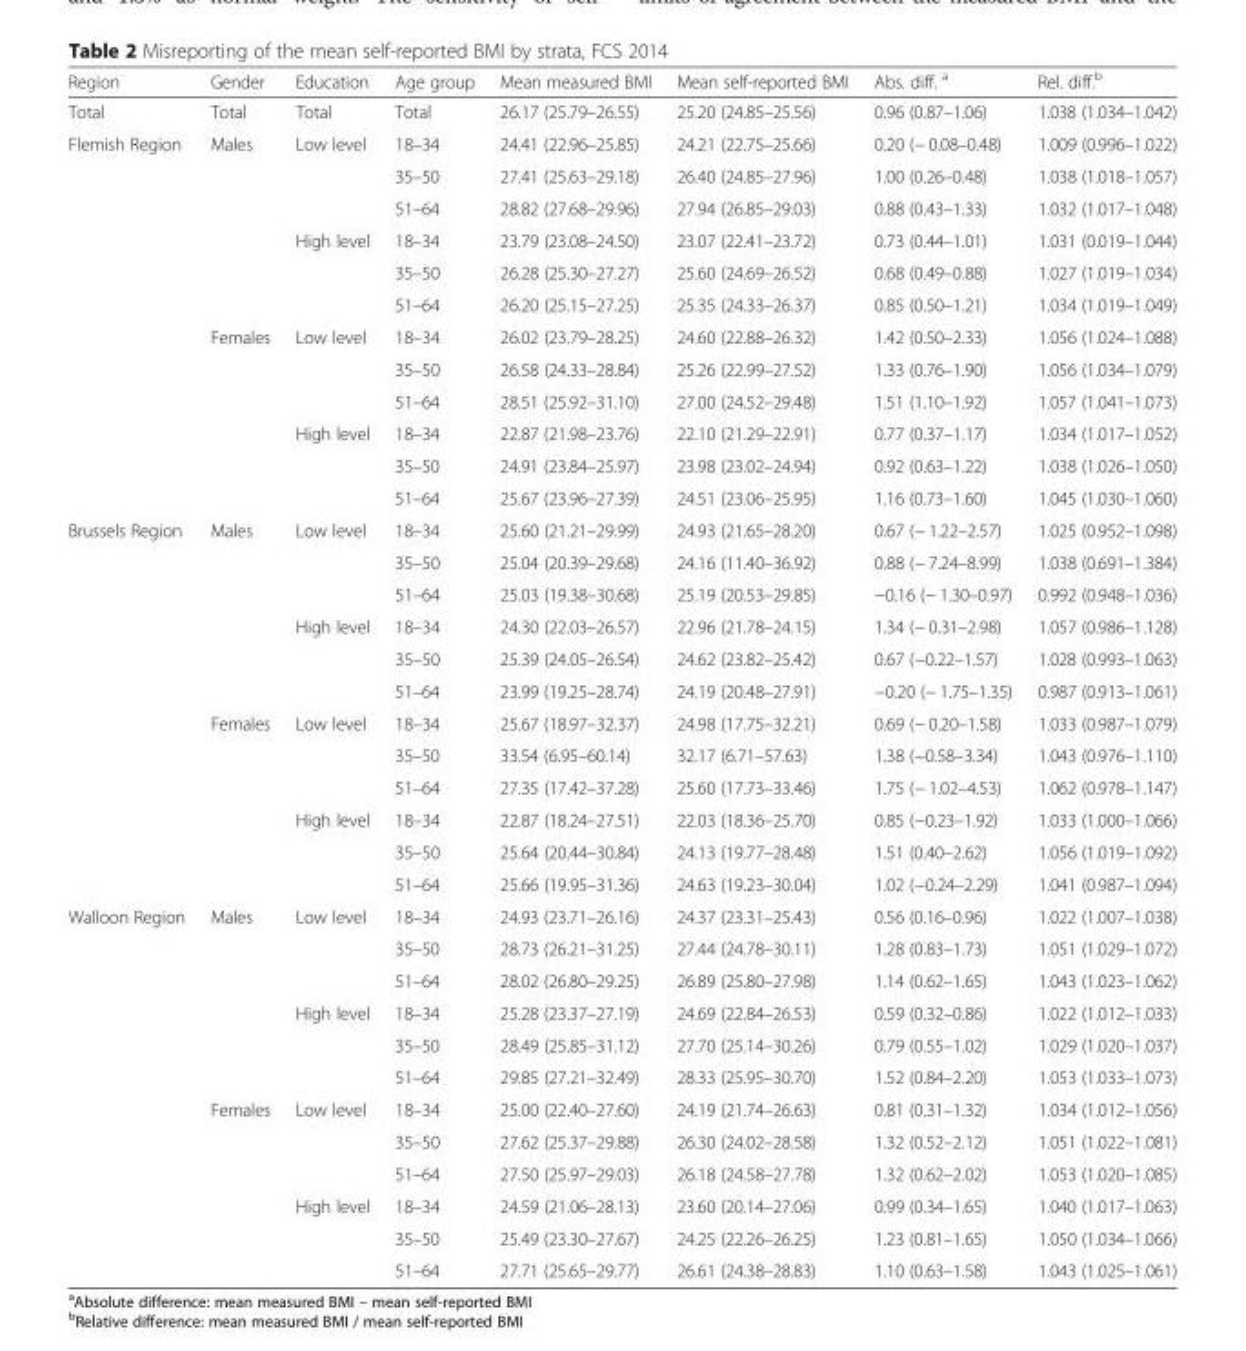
<table><thead><tr><td>Region</td><td>Gender</td><td>Education</td><td>Age group</td><td>Mean measured BMI</td><td>Mean self-reported BMI</td><td>Abs. diff. <sup>a</sup></td><td>Rel. diff.<sup>b</sup></td></tr></thead><tbody><tr><td>Total</td><td>Total</td><td>Total</td><td>Total</td><td>26.17 (25.79–26.55)</td><td>25.20 (24.85–25.56)</td><td>0.96 (0.87–1.06)</td><td>1.038 (1.034–1.042)</td></tr><tr><td rowspan="12">Flemish Region</td><td>Males</td><td>Low level</td><td>18–34</td><td>24.41 (22.96–25.85)</td><td>24.21 (22.75–25.66)</td><td>0.20 (− 0.08–0.48)</td><td>1.009 (0.996–1.022)</td></tr><tr><td></td><td></td><td>35–50</td><td>27.41 (25.63–29.18)</td><td>26.40 (24.85–27.96)</td><td>1.00 (0.26–0.48)</td><td>1.038 (1.018–1.057)</td></tr><tr><td></td><td></td><td>51–64</td><td>28.82 (27.68–29.96)</td><td>27.94 (26.85–29.03)</td><td>0.88 (0.43–1.33)</td><td>1.032 (1.017–1.048)</td></tr><tr><td></td><td>High level</td><td>18–34</td><td>23.79 (23.08–24.50)</td><td>23.07 (22.41–23.72)</td><td>0.73 (0.44–1.01)</td><td>1.031 (0.019–1.044)</td></tr><tr><td></td><td></td><td>35–50</td><td>26.28 (25.30–27.27)</td><td>25.60 (24.69–26.52)</td><td>0.68 (0.49–0.88)</td><td>1.027 (1.019–1.034)</td></tr><tr><td></td><td></td><td>51–64</td><td>26.20 (25.15–27.25)</td><td>25.35 (24.33–26.37)</td><td>0.85 (0.50–1.21)</td><td>1.034 (1.019–1.049)</td></tr><tr><td>Females</td><td>Low level</td><td>18–34</td><td>26.02 (23.79–28.25)</td><td>24.60 (22.88–26.32)</td><td>1.42 (0.50–2.33)</td><td>1.056 (1.024–1.088)</td></tr><tr><td></td><td></td><td>35–50</td><td>26.58 (24.33–28.84)</td><td>25.26 (22.99–27.52)</td><td>1.33 (0.76–1.90)</td><td>1.056 (1.034–1.079)</td></tr><tr><td></td><td></td><td>51–64</td><td>28.51 (25.92–31.10)</td><td>27.00 (24.52–29.48)</td><td>1.51 (1.10–1.92)</td><td>1.057 (1.041–1.073)</td></tr><tr><td></td><td>High level</td><td>18–34</td><td>22.87 (21.98–23.76)</td><td>22.10 (21.29–22.91)</td><td>0.77 (0.37–1.17)</td><td>1.034 (1.017–1.052)</td></tr><tr><td></td><td></td><td>35–50</td><td>24.91 (23.84–25.97)</td><td>23.98 (23.02–24.94)</td><td>0.92 (0.63–1.22)</td><td>1.038 (1.026–1.050)</td></tr><tr><td></td><td></td><td>51–64</td><td>25.67 (23.96–27.39)</td><td>24.51 (23.06–25.95)</td><td>1.16 (0.73–1.60)</td><td>1.045 (1.030–1.060)</td></tr><tr><td rowspan="12">Brussels Region</td><td>Males</td><td>Low level</td><td>18–34</td><td>25.60 (21.21–29.99)</td><td>24.93 (21.65–28.20)</td><td>0.67 (− 1.22–2.57)</td><td>1.025 (0.952–1.098)</td></tr><tr><td></td><td></td><td>35–50</td><td>25.04 (20.39–29.68)</td><td>24.16 (11.40–36.92)</td><td>0.88 (− 7.24–8.99)</td><td>1.038 (0.691–1.384)</td></tr><tr><td></td><td></td><td>51–64</td><td>25.03 (19.38–30.68)</td><td>25.19 (20.53–29.85)</td><td>−0.16 (− 1.30–0.97)</td><td>0.992 (0.948–1.036)</td></tr><tr><td></td><td>High level</td><td>18–34</td><td>24.30 (22.03–26.57)</td><td>22.96 (21.78–24.15)</td><td>1.34 (− 0.31–2.98)</td><td>1.057 (0.986–1.128)</td></tr><tr><td></td><td></td><td>35–50</td><td>25.39 (24.05–26.54)</td><td>24.62 (23.82–25.42)</td><td>0.67 (−0.22–1.57)</td><td>1.028 (0.993–1.063)</td></tr><tr><td></td><td></td><td>51–64</td><td>23.99 (19.25–28.74)</td><td>24.19 (20.48–27.91)</td><td>−0.20 (− 1.75–1.35)</td><td>0.987 (0.913–1.061)</td></tr><tr><td>Females</td><td>Low level</td><td>18–34</td><td>25.67 (18.97–32.37)</td><td>24.98 (17.75–32.21)</td><td>0.69 (− 0.20–1.58)</td><td>1.033 (0.987–1.079)</td></tr><tr><td></td><td></td><td>35–50</td><td>33.54 (6.95–60.14)</td><td>32.17 (6.71–57.63)</td><td>1.38 (−0.58–3.34)</td><td>1.043 (0.976–1.110)</td></tr><tr><td></td><td></td><td>51–64</td><td>27.35 (17.42–37.28)</td><td>25.60 (17.73–33.46)</td><td>1.75 (− 1.02–4.53)</td><td>1.062 (0.978–1.147)</td></tr><tr><td></td><td>High level</td><td>18–34</td><td>22.87 (18.24–27.51)</td><td>22.03 (18.36–25.70)</td><td>0.85 (−0.23–1.92)</td><td>1.033 (1.000–1.066)</td></tr><tr><td></td><td></td><td>35–50</td><td>25.64 (20.44–30.84)</td><td>24.13 (19.77–28.48)</td><td>1.51 (0.40–2.62)</td><td>1.056 (1.019–1.092)</td></tr><tr><td></td><td></td><td>51–64</td><td>25.66 (19.95–31.36)</td><td>24.63 (19.23–30.04)</td><td>1.02 (−0.24–2.29)</td><td>1.041 (0.987–1.094)</td></tr><tr><td rowspan="12">Walloon Region</td><td>Males</td><td>Low level</td><td>18–34</td><td>24.93 (23.71–26.16)</td><td>24.37 (23.31–25.43)</td><td>0.56 (0.16–0.96)</td><td>1.022 (1.007–1.038)</td></tr><tr><td></td><td></td><td>35–50</td><td>28.73 (26.21–31.25)</td><td>27.44 (24.78–30.11)</td><td>1.28 (0.83–1.73)</td><td>1.051 (1.029–1.072)</td></tr><tr><td></td><td></td><td>51–64</td><td>28.02 (26.80–29.25)</td><td>26.89 (25.80–27.98)</td><td>1.14 (0.62–1.65)</td><td>1.043 (1.023–1.062)</td></tr><tr><td></td><td>High level</td><td>18–34</td><td>25.28 (23.37–27.19)</td><td>24.69 (22.84–26.53)</td><td>0.59 (0.32–0.86)</td><td>1.022 (1.012–1.033)</td></tr><tr><td></td><td></td><td>35–50</td><td>28.49 (25.85–31.12)</td><td>27.70 (25.14–30.26)</td><td>0.79 (0.55–1.02)</td><td>1.029 (1.020–1.037)</td></tr><tr><td></td><td></td><td>51–64</td><td>29.85 (27.21–32.49)</td><td>28.33 (25.95–30.70)</td><td>1.52 (0.84–2.20)</td><td>1.053 (1.033–1.073)</td></tr><tr><td>Females</td><td>Low level</td><td>18–34</td><td>25.00 (22.40–27.60)</td><td>24.19 (21.74–26.63)</td><td>0.81 (0.31–1.32)</td><td>1.034 (1.012–1.056)</td></tr><tr><td></td><td></td><td>35–50</td><td>27.62 (25.37–29.88)</td><td>26.30 (24.02–28.58)</td><td>1.32 (0.52–2.12)</td><td>1.051 (1.022–1.081)</td></tr><tr><td></td><td></td><td>51–64</td><td>27.50 (25.97–29.03)</td><td>26.18 (24.58–27.78)</td><td>1.32 (0.62–2.02)</td><td>1.053 (1.020–1.085)</td></tr><tr><td></td><td>High level</td><td>18–34</td><td>24.59 (21.06–28.13)</td><td>23.60 (20.14–27.06)</td><td>0.99 (0.34–1.65)</td><td>1.040 (1.017–1.063)</td></tr><tr><td></td><td></td><td>35–50</td><td>25.49 (23.30–27.67)</td><td>24.25 (22.26–26.25)</td><td>1.23 (0.81–1.65)</td><td>1.050 (1.034–1.066)</td></tr><tr><td></td><td></td><td>51–64</td><td>27.71 (25.65–29.77)</td><td>26.61 (24.38–28.83)</td><td>1.10 (0.63–1.58)</td><td>1.043 (1.025–1.061)</td></tr></tbody></table>